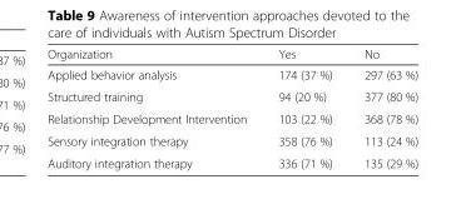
<table><thead><tr><td>Organization</td><td>Yes</td><td>No</td></tr></thead><tbody><tr><td>Applied behavior analysis</td><td>174 (37 %)</td><td>297 (63 %)</td></tr><tr><td>Structured training</td><td>94 (20 %)</td><td>377 (80 %)</td></tr><tr><td>Relationship Development Intervention</td><td>103 (22 %)</td><td>368 (78 %)</td></tr><tr><td>Sensory integration therapy</td><td>358 (76 %)</td><td>113 (24 %)</td></tr><tr><td>Auditory integration therapy</td><td>336 (71 %)</td><td>135 (29 %)</td></tr></tbody></table>